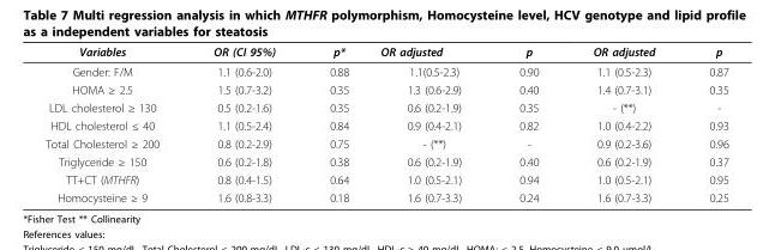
<table><thead><tr><td>Variables</td><td>OR (CI 95%)</td><td>p*</td><td>OR adjusted</td><td>p</td><td>OR adjusted</td><td>p</td></tr></thead><tbody><tr><td>Gender: F/M</td><td>1.1 (0.6-2.0)</td><td>0.88</td><td>1.1(0.5-2.3)</td><td>0.90</td><td>1.1 (0.5-2.3)</td><td>0.87</td></tr><tr><td>HOMA ≥ 2.5</td><td>1.5 (0.7-3.2)</td><td>0.35</td><td>1.3 (0.6-2.9)</td><td>0.40</td><td>1.4 (0.7-3.1)</td><td>0.35</td></tr><tr><td>LDL cholesterol ≥ 130</td><td>0.5 (0.2-1.6)</td><td>0.35</td><td>0.6 (0.2-1.9)</td><td>0.35</td><td>- (**)</td><td>-</td></tr><tr><td>HDL cholesterol ≤ 40</td><td>1.1 (0.5-2.4)</td><td>0.84</td><td>0.9 (0.4-2.1)</td><td>0.82</td><td>1.0 (0.4-2.2)</td><td>0.93</td></tr><tr><td>Total Cholesterol ≥ 200</td><td>0.8 (0.2-2.9)</td><td>0.75</td><td>- (**)</td><td>-</td><td>0.9 (0.2-3.6)</td><td>0.96</td></tr><tr><td>Triglyceride ≥ 150</td><td>0.6 (0.2-1.8)</td><td>0.38</td><td>0.6 (0.2-1.9)</td><td>0.40</td><td>0.6 (0.2-1.9)</td><td>0.37</td></tr><tr><td>TT+CT (MTHFR)</td><td>0.8 (0.4-1.5)</td><td>0.64</td><td>1.0 (0.5-2.1)</td><td>0.94</td><td>1.0 (0.5-2.1)</td><td>0.95</td></tr><tr><td>Homocysteine ≥ 9</td><td>1.6 (0.8-3.3)</td><td>0.18</td><td>1.6 (0.7-3.3)</td><td>0.24</td><td>1.6 (0.7-3.3)</td><td>0.25</td></tr></tbody></table>